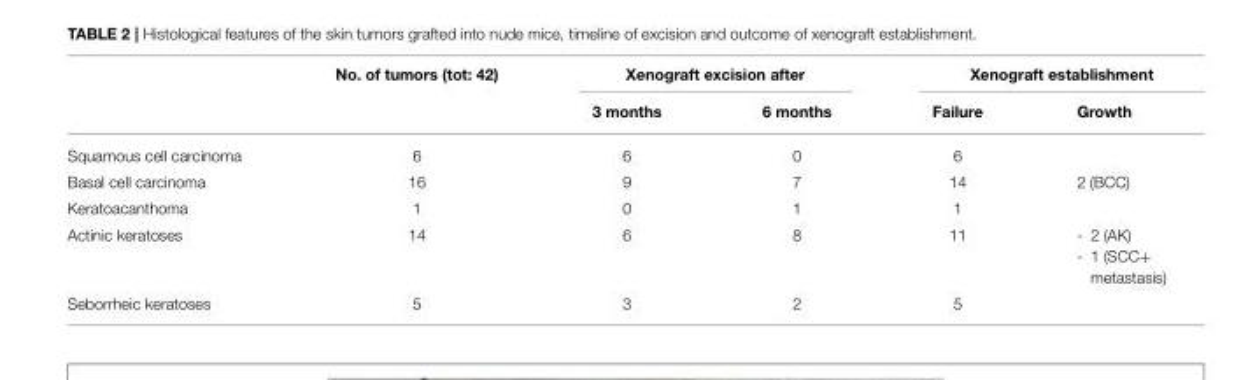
<table><thead><tr><td rowspan="2"></td><td rowspan="2">No. of tumors (tot: 42)</td><td colspan="2">Xenograft excision after</td><td colspan="2">Xenograft establishment</td></tr><tr><td>3 months</td><td>6 months</td><td>Failure</td><td>Growth</td></tr></thead><tbody><tr><td>Squamous cell carcinoma</td><td>6</td><td>6</td><td>0</td><td>6</td><td></td></tr><tr><td>Basal cell carcinoma</td><td>16</td><td>9</td><td>7</td><td>14</td><td>2 (BCC)</td></tr><tr><td>Keratoacanthoma</td><td>1</td><td>0</td><td>1</td><td>1</td><td></td></tr><tr><td>Actinic keratoses</td><td>14</td><td>6</td><td>8</td><td>11</td><td>- 2 (AK) - 1 (SCC+ metastasis)</td></tr><tr><td>Seborrheic keratoses</td><td>5</td><td>3</td><td>2</td><td>5</td><td></td></tr></tbody></table>